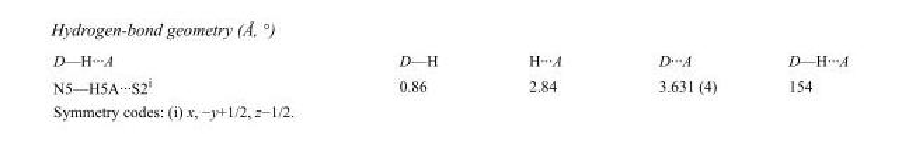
<table><tbody><tr><td>D—H···A</td><td>D—H</td><td>H···A</td><td>D···A</td><td>D—H···A</td></tr><tr><td>N5—H5A···S2<sup>i</sup></td><td>0.86</td><td>2.84</td><td>3.631 (4)</td><td>154</td></tr></tbody></table>